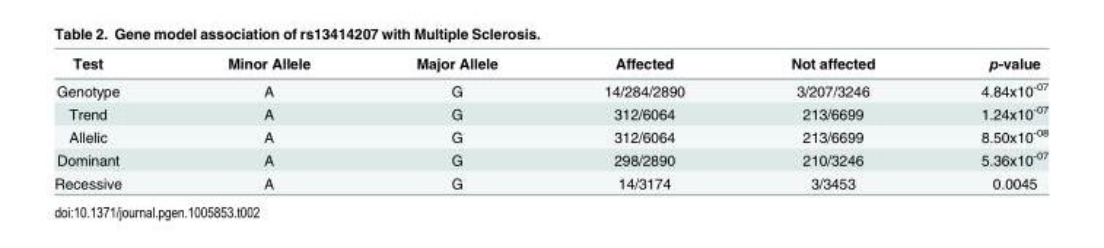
<table><thead><tr><td>Test</td><td>Minor Allele</td><td>Major Allele</td><td>Affected</td><td>Not affected</td><td>p-value</td></tr></thead><tbody><tr><td>Genotype</td><td>A</td><td>G</td><td>14/284/2890</td><td>3/207/3246</td><td>4.84x10<sup>-07</sup></td></tr><tr><td>Trend</td><td>A</td><td>G</td><td>312/6064</td><td>213/6699</td><td>1.24x10<sup>-07</sup></td></tr><tr><td>Allelic</td><td>A</td><td>G</td><td>312/6064</td><td>213/6699</td><td>8.50x10<sup>-08</sup></td></tr><tr><td>Dominant</td><td>A</td><td>G</td><td>298/2890</td><td>210/3246</td><td>5.36x10<sup>-07</sup></td></tr><tr><td>Recessive</td><td>A</td><td>G</td><td>14/3174</td><td>3/3453</td><td>0.0045</td></tr></tbody></table>